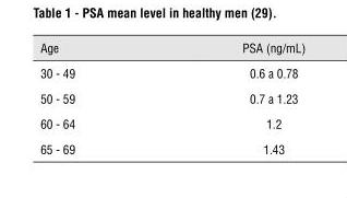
<table><thead><tr><td>Age</td><td>PSA (ng/mL)</td></tr></thead><tbody><tr><td>30 - 49</td><td>0.6 a 0.78</td></tr><tr><td>50 - 59</td><td>0.7 a 1.23</td></tr><tr><td>60 - 64</td><td>1.2</td></tr><tr><td>65 - 69</td><td>1.43</td></tr></tbody></table>